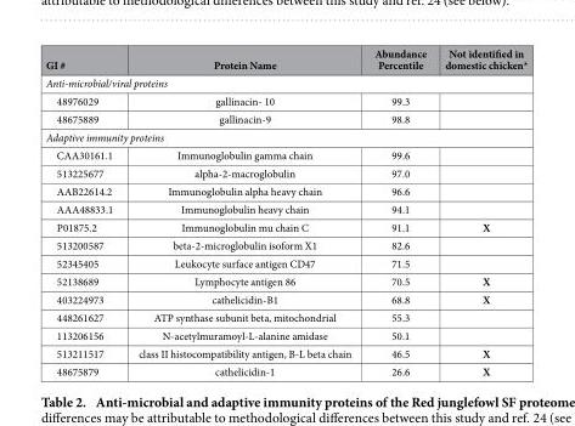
<table><thead><tr><td>GI #</td><td>Protein Name</td><td>Abundance Percentile</td><td>Not identified in domestic chicken*</td></tr></thead><tbody><tr><td colspan="4">Anti-microbial/viral proteins</td></tr><tr><td>48976029</td><td>gallinacin- 10</td><td>99.3</td><td></td></tr><tr><td>48675889</td><td>gallinacin-9</td><td>98.8</td><td></td></tr><tr><td colspan="4">Adaptive immunity proteins</td></tr><tr><td>CAA30161.1</td><td>Immunoglobulin gamma chain</td><td>99.6</td><td></td></tr><tr><td>513225677</td><td>alpha-2-macroglobulin</td><td>97.0</td><td></td></tr><tr><td>AAB22614.2</td><td>Immunoglobulin alpha heavy chain</td><td>96.6</td><td></td></tr><tr><td>AAA48833.1</td><td>Immunoglobulin heavy chain</td><td>94.1</td><td></td></tr><tr><td>P01875.2</td><td>Immunoglobulin mu chain C</td><td>91.1</td><td>X</td></tr><tr><td>513200587</td><td>beta-2-microglobulin isoform X1</td><td>82.6</td><td></td></tr><tr><td>52345405</td><td>Leukocyte surface antigen CD47</td><td>71.5</td><td></td></tr><tr><td>52138689</td><td>Lymphocyte antigen 86</td><td>70.5</td><td>X</td></tr><tr><td>403224973</td><td>cathelicidin-B1</td><td>68.8</td><td>X</td></tr><tr><td>448261627</td><td>ATP synthase subunit beta, mitochondrial</td><td>55.3</td><td></td></tr><tr><td>113206156</td><td>N-acetylmuramoyl-L-alanine amidase</td><td>50.1</td><td></td></tr><tr><td>513211517</td><td>class II histocompatibility antigen, B-L beta chain</td><td>46.5</td><td>X</td></tr><tr><td>48675879</td><td>cathelicidin-1</td><td>26.6</td><td>X</td></tr></tbody></table>